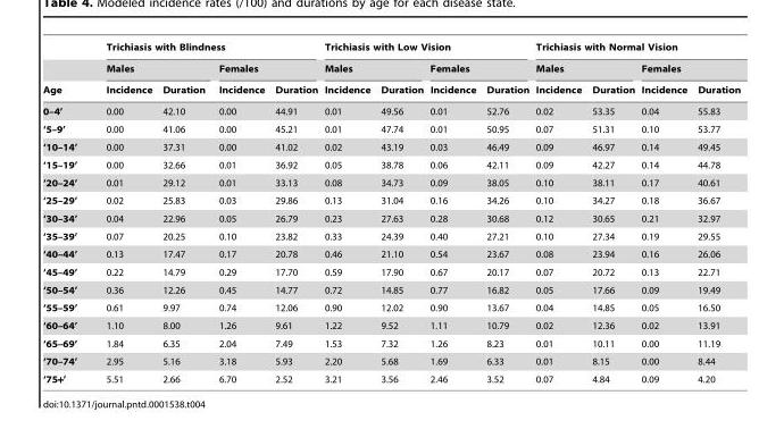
<table><thead><tr><td rowspan="3">Age</td><td colspan="4">Trichiasis with Blindness</td><td colspan="4">Trichiasis with Low Vision</td><td colspan="4">Trichiasis with Normal Vision</td></tr><tr><td colspan="2">Males</td><td colspan="2">Females</td><td colspan="2">Males</td><td colspan="2">Females</td><td colspan="2">Males</td><td colspan="2">Females</td></tr><tr><td>Incidence</td><td>Duration</td><td>Incidence</td><td>Duration</td><td>Incidence</td><td>Duration</td><td>Incidence</td><td>Duration</td><td>Incidence</td><td>Duration</td><td>Incidence</td><td>Duration</td></tr></thead><tbody><tr><td>0–4’</td><td>0.00</td><td>42.10</td><td>0.00</td><td>44.91</td><td>0.01</td><td>49.56</td><td>0.01</td><td>52.76</td><td>0.02</td><td>53.35</td><td>0.04</td><td>55.83</td></tr><tr><td>‘5–9’</td><td>0.00</td><td>41.06</td><td>0.00</td><td>45.21</td><td>0.01</td><td>47.74</td><td>0.01</td><td>50.95</td><td>0.07</td><td>51.31</td><td>0.10</td><td>53.77</td></tr><tr><td>‘10–14’</td><td>0.00</td><td>37.31</td><td>0.00</td><td>41.02</td><td>0.02</td><td>43.19</td><td>0.03</td><td>46.49</td><td>0.09</td><td>46.97</td><td>0.14</td><td>49.45</td></tr><tr><td>‘15–19’</td><td>0.00</td><td>32.66</td><td>0.01</td><td>36.92</td><td>0.05</td><td>38.78</td><td>0.06</td><td>42.11</td><td>0.09</td><td>42.27</td><td>0.14</td><td>44.78</td></tr><tr><td>‘20–24’</td><td>0.01</td><td>29.12</td><td>0.01</td><td>33.13</td><td>0.08</td><td>34.73</td><td>0.09</td><td>38.05</td><td>0.10</td><td>38.11</td><td>0.17</td><td>40.61</td></tr><tr><td>‘25–29’</td><td>0.02</td><td>25.83</td><td>0.03</td><td>29.86</td><td>0.13</td><td>31.04</td><td>0.16</td><td>34.26</td><td>0.10</td><td>34.27</td><td>0.18</td><td>36.67</td></tr><tr><td>‘30–34’</td><td>0.04</td><td>22.96</td><td>0.05</td><td>26.79</td><td>0.23</td><td>27.63</td><td>0.28</td><td>30.68</td><td>0.12</td><td>30.65</td><td>0.21</td><td>32.97</td></tr><tr><td>‘35–39’</td><td>0.07</td><td>20.25</td><td>0.10</td><td>23.82</td><td>0.33</td><td>24.39</td><td>0.40</td><td>27.21</td><td>0.10</td><td>27.34</td><td>0.19</td><td>29.55</td></tr><tr><td>‘40–44’</td><td>0.13</td><td>17.47</td><td>0.17</td><td>20.78</td><td>0.46</td><td>21.10</td><td>0.54</td><td>23.67</td><td>0.08</td><td>23.94</td><td>0.16</td><td>26.06</td></tr><tr><td>‘45–49’</td><td>0.22</td><td>14.79</td><td>0.29</td><td>17.70</td><td>0.59</td><td>17.90</td><td>0.67</td><td>20.17</td><td>0.07</td><td>20.72</td><td>0.13</td><td>22.71</td></tr><tr><td>‘50–54’</td><td>0.36</td><td>12.26</td><td>0.45</td><td>14.77</td><td>0.72</td><td>14.85</td><td>0.77</td><td>16.82</td><td>0.05</td><td>17.66</td><td>0.09</td><td>19.49</td></tr><tr><td>‘55–59’</td><td>0.61</td><td>9.97</td><td>0.74</td><td>12.06</td><td>0.90</td><td>12.02</td><td>0.90</td><td>13.67</td><td>0.04</td><td>14.85</td><td>0.05</td><td>16.50</td></tr><tr><td>‘60–64’</td><td>1.10</td><td>8.00</td><td>1.26</td><td>9.61</td><td>1.22</td><td>9.52</td><td>1.11</td><td>10.79</td><td>0.02</td><td>12.36</td><td>0.02</td><td>13.91</td></tr><tr><td>‘65–69’</td><td>1.84</td><td>6.35</td><td>2.04</td><td>7.49</td><td>1.53</td><td>7.32</td><td>1.26</td><td>8.23</td><td>0.01</td><td>10.11</td><td>0.00</td><td>11.19</td></tr><tr><td>‘70–74’</td><td>2.95</td><td>5.16</td><td>3.18</td><td>5.93</td><td>2.20</td><td>5.68</td><td>1.69</td><td>6.33</td><td>0.01</td><td>8.15</td><td>0.00</td><td>8.44</td></tr><tr><td>‘75+’</td><td>5.51</td><td>2.66</td><td>6.70</td><td>2.52</td><td>3.21</td><td>3.56</td><td>2.46</td><td>3.52</td><td>0.07</td><td>4.84</td><td>0.09</td><td>4.20</td></tr></tbody></table>